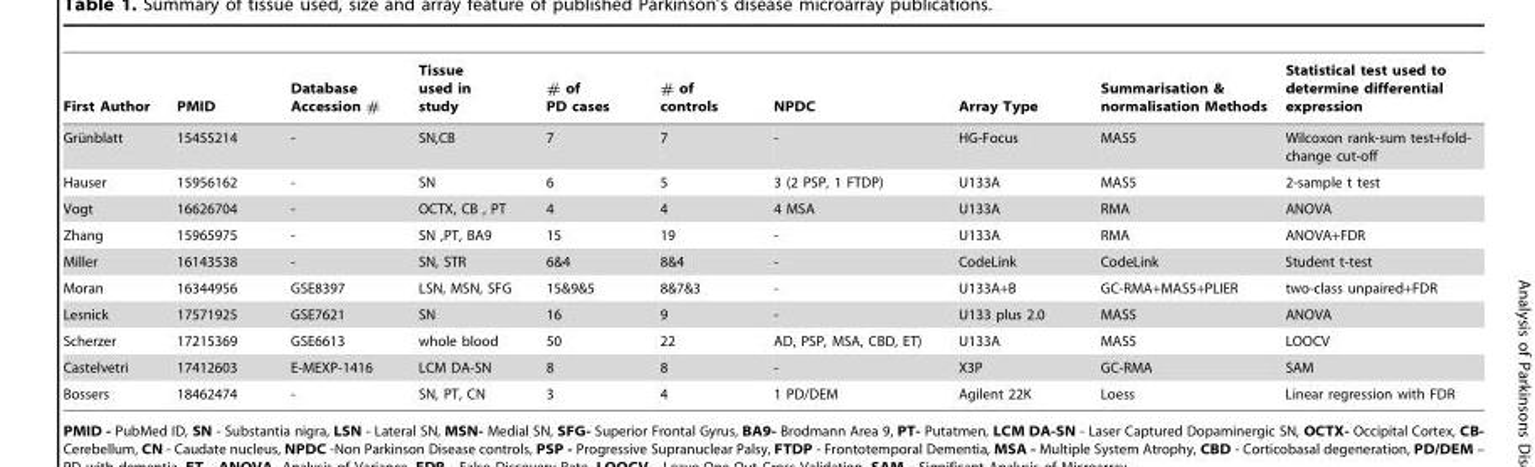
<table><thead><tr><td>First Author</td><td>PMID</td><td>Database Accession #</td><td>Tissue used in study</td><td># of PD cases</td><td># of controls</td><td>NPDC</td><td>Array Type</td><td>Summarisation &amp; normalisation Methods</td><td>Statistical test used to determine differential expression</td></tr></thead><tbody><tr><td>Gru¨nblatt</td><td>15455214</td><td>-</td><td>SN,CB</td><td>7</td><td>7</td><td>-</td><td>HG-Focus</td><td>MAS5</td><td>Wilcoxon rank-sum test+fold- change cut-off</td></tr><tr><td>Hauser</td><td>15956162</td><td>-</td><td>SN</td><td>6</td><td>5</td><td>3 (2 PSP, 1 FTDP)</td><td>U133A</td><td>MAS5</td><td>2-sample t test</td></tr><tr><td>Vogt</td><td>16626704</td><td>-</td><td>OCTX, CB , PT</td><td>4</td><td>4</td><td>4 MSA</td><td>U133A</td><td>RMA</td><td>ANOVA</td></tr><tr><td>Zhang</td><td>15965975</td><td>-</td><td>SN ,PT, BA9</td><td>15</td><td>19</td><td>-</td><td>U133A</td><td>RMA</td><td>ANOVA+FDR</td></tr><tr><td>Miller</td><td>16143538</td><td>-</td><td>SN, STR</td><td>6&amp;4</td><td>8&amp;4</td><td>-</td><td>CodeLink</td><td>CodeLink</td><td>Student t-test</td></tr><tr><td>Moran</td><td>16344956</td><td>GSE8397</td><td>LSN, MSN, SFG</td><td>15&amp;9&amp;5</td><td>8&amp;7&amp;3</td><td>-</td><td>U133A+B</td><td>GC-RMA+MAS5+PLIER</td><td>two-class unpaired+FDR</td></tr><tr><td>Lesnick</td><td>17571925</td><td>GSE7621</td><td>SN</td><td>16</td><td>9</td><td>-</td><td>U133 plus 2.0</td><td>MAS5</td><td>ANOVA</td></tr><tr><td>Scherzer</td><td>17215369</td><td>GSE6613</td><td>whole blood</td><td>50</td><td>22</td><td>AD, PSP, MSA, CBD, ET)</td><td>U133A</td><td>MAS5</td><td>LOOCV</td></tr><tr><td>Castelvetri</td><td>17412603</td><td>E-MEXP-1416</td><td>LCM DA-SN</td><td>8</td><td>8</td><td>-</td><td>X3P</td><td>GC-RMA</td><td>SAM</td></tr><tr><td>Bossers</td><td>18462474</td><td>-</td><td>SN, PT, CN</td><td>3</td><td>4</td><td>1 PD/DEM</td><td>Agilent 22K</td><td>Loess</td><td>Linear regression with FDR</td></tr></tbody></table>